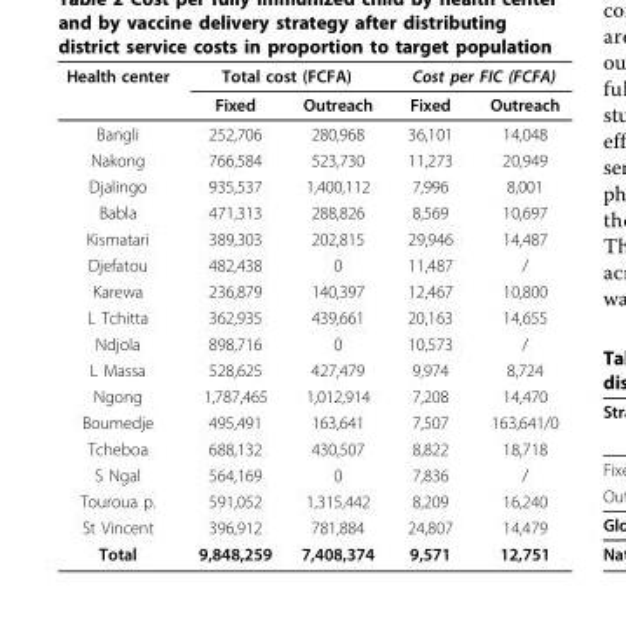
<table><thead><tr><td rowspan="2">Health center</td><td colspan="2">Total cost (FCFA)</td><td colspan="2">Cost per FIC (FCFA)</td></tr><tr><td>Fixed</td><td>Outreach</td><td>Fixed</td><td>Outreach</td></tr></thead><tbody><tr><td>Bangli</td><td>252,706</td><td>280,968</td><td>36,101</td><td>14,048</td></tr><tr><td>Nakong</td><td>766,584</td><td>523,730</td><td>11,273</td><td>20,949</td></tr><tr><td>Djalingo</td><td>935,537</td><td>1,400,112</td><td>7,996</td><td>8,001</td></tr><tr><td>Babla</td><td>471,313</td><td>288,826</td><td>8,569</td><td>10,697</td></tr><tr><td>Kismatari</td><td>389,303</td><td>202,815</td><td>29,946</td><td>14,487</td></tr><tr><td>Djefatou</td><td>482,438</td><td>0</td><td>11,487</td><td>/</td></tr><tr><td>Karewa</td><td>236,879</td><td>140,397</td><td>12,467</td><td>10,800</td></tr><tr><td>L Tchitta</td><td>362,935</td><td>439,661</td><td>20,163</td><td>14,655</td></tr><tr><td>Ndjola</td><td>898,716</td><td>0</td><td>10,573</td><td>/</td></tr><tr><td>L Massa</td><td>528,625</td><td>427,479</td><td>9,974</td><td>8,724</td></tr><tr><td>Ngong</td><td>1,787,465</td><td>1,012,914</td><td>7,208</td><td>14,470</td></tr><tr><td>Boumedje</td><td>495,491</td><td>163,641</td><td>7,507</td><td>163,641/0</td></tr><tr><td>Tcheboa</td><td>688,132</td><td>430,507</td><td>8,822</td><td>18,718</td></tr><tr><td>S Ngal</td><td>564,169</td><td>0</td><td>7,836</td><td>/</td></tr><tr><td>Touroua p.</td><td>591,052</td><td>1,315,442</td><td>8,209</td><td>16,240</td></tr><tr><td>St Vincent</td><td>396,912</td><td>781,884</td><td>24,807</td><td>14,479</td></tr><tr><td>Total</td><td>9,848,259</td><td>7,408,374</td><td>9,571</td><td>12,751</td></tr></tbody></table>